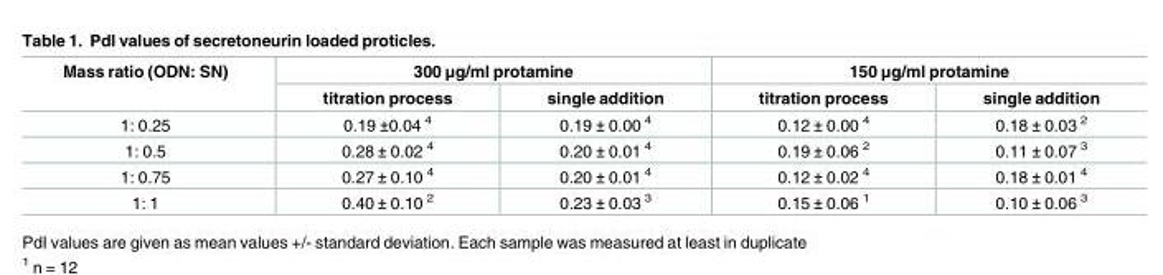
<table><thead><tr><td rowspan="2">Mass ratio (ODN: SN)</td><td colspan="2">300 μg/ml protamine</td><td colspan="2">150 μg/ml protamine</td></tr><tr><td>titration process</td><td>single addition</td><td>titration process</td><td>single addition</td></tr></thead><tbody><tr><td>1: 0.25</td><td>0.19 ±0.04 <sup>4</sup></td><td>0.19 ± 0.00 <sup>4</sup></td><td>0.12 ± 0.00 <sup>4</sup></td><td>0.18 ± 0.03 <sup>2</sup></td></tr><tr><td>1: 0.5</td><td>0.28 ± 0.02 <sup>4</sup></td><td>0.20 ± 0.01 <sup>4</sup></td><td>0.19 ± 0.06 <sup>2</sup></td><td>0.11 ± 0.07 <sup>3</sup></td></tr><tr><td>1: 0.75</td><td>0.27 ± 0.10 <sup>4</sup></td><td>0.20 ± 0.01 <sup>4</sup></td><td>0.12 ± 0.02 <sup>4</sup></td><td>0.18 ± 0.01 <sup>4</sup></td></tr><tr><td>1: 1</td><td>0.40 ± 0.10 <sup>2</sup></td><td>0.23 ± 0.03 <sup>3</sup></td><td>0.15 ± 0.06 <sup>1</sup></td><td>0.10 ± 0.06 <sup>3</sup></td></tr></tbody></table>